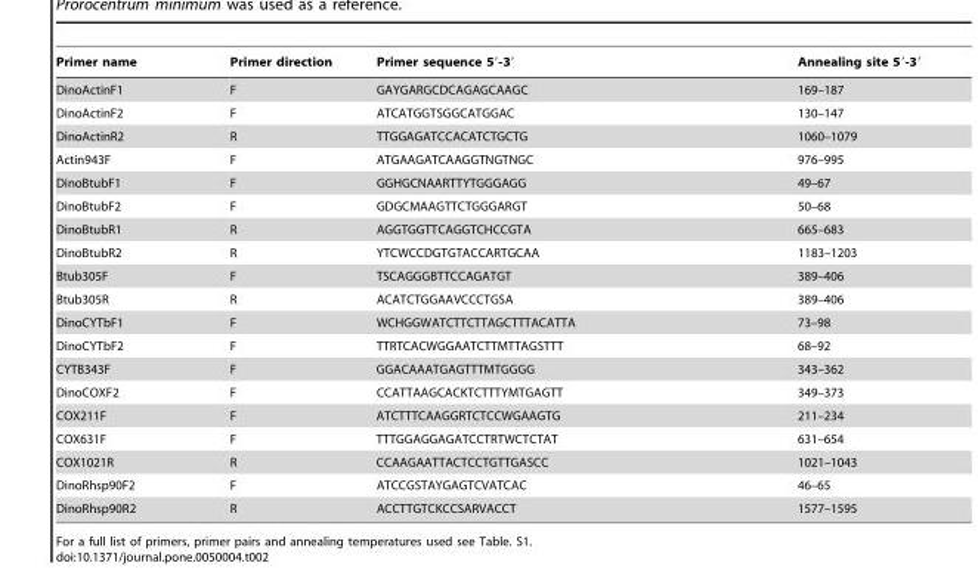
<table><thead><tr><td>Primer name</td><td>Primer direction</td><td>Primer sequence 5′-3′</td><td>Annealing site 5′-3′</td></tr></thead><tbody><tr><td>DinoActinF1</td><td>F</td><td>GAYGARGCDCAGAGCAAGC</td><td>169–187</td></tr><tr><td>DinoActinF2</td><td>F</td><td>ATCATGGTSGGCATGGAC</td><td>130–147</td></tr><tr><td>DinoActinR2</td><td>R</td><td>TTGGAGATCCACATCTGCTG</td><td>1060–1079</td></tr><tr><td>Actin943F</td><td>F</td><td>ATGAAGATCAAGGTNGTNGC</td><td>976–995</td></tr><tr><td>DinoBtubF1</td><td>F</td><td>GGHGCNAARTTYTGGGAGG</td><td>49–67</td></tr><tr><td>DinoBtubF2</td><td>F</td><td>GDGCMAAGTTCTGGGARGT</td><td>50–68</td></tr><tr><td>DinoBtubR1</td><td>R</td><td>AGGTGGTTCAGGTCHCCGTA</td><td>665–683</td></tr><tr><td>DinoBtubR2</td><td>R</td><td>YTCWCCDGTGTACCARTGCAA</td><td>1183–1203</td></tr><tr><td>Btub305F</td><td>F</td><td>TSCAGGGBTTCCAGATGT</td><td>389–406</td></tr><tr><td>Btub305R</td><td>R</td><td>ACATCTGGAAVCCCTGSA</td><td>389–406</td></tr><tr><td>DinoCYTbF1</td><td>F</td><td>WCHGGWATCTTCTTAGCTTTACATTA</td><td>73–98</td></tr><tr><td>DinoCYTbF2</td><td>F</td><td>TTRTCACWGGAATCTTMTTAGSTTT</td><td>68–92</td></tr><tr><td>CYTB343F</td><td>F</td><td>GGACAAATGAGTTTMTGGGG</td><td>343–362</td></tr><tr><td>DinoCOXF2</td><td>F</td><td>CCATTAAGCACKTCTTTYMTGAGTT</td><td>349–373</td></tr><tr><td>COX211F</td><td>F</td><td>ATCTTTCAAGGRTCTCCWGAAGTG</td><td>211–234</td></tr><tr><td>COX631F</td><td>F</td><td>TTTGGAGGAGATCCTRTWCTCTAT</td><td>631–654</td></tr><tr><td>COX1021R</td><td>R</td><td>CCAAGAATTACTCCTGTTGASCC</td><td>1021–1043</td></tr><tr><td>DinoRhsp90F2</td><td>F</td><td>ATCCGSTAYGAGTCVATCAC</td><td>46–65</td></tr><tr><td>DinoRhsp90R2</td><td>R</td><td>ACCTTGTCKCCSARVACCT</td><td>1577–1595</td></tr></tbody></table>